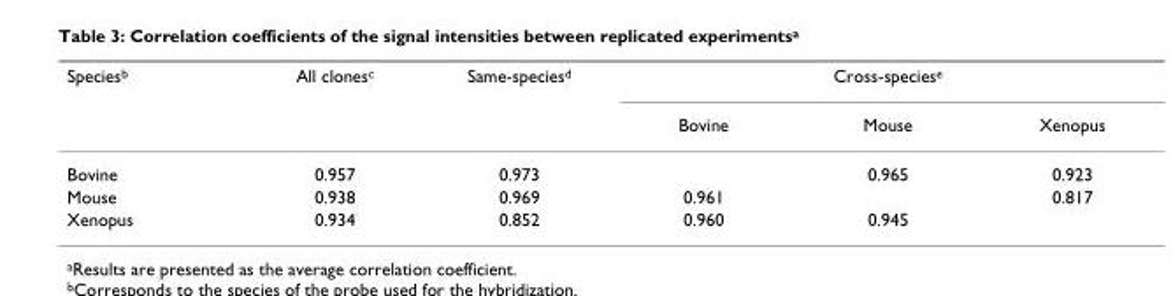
<table><thead><tr><td rowspan="2">Speciesb</td><td rowspan="2">All clonesc</td><td rowspan="2">Same-speciesd</td><td colspan="3">Cross-speciese</td></tr><tr><td>Bovine</td><td>Mouse</td><td>Xenopus</td></tr></thead><tbody><tr><td>Bovine</td><td>0.957</td><td>0.973</td><td></td><td>0.965</td><td>0.923</td></tr><tr><td>Mouse</td><td>0.938</td><td>0.969</td><td>0.961</td><td></td><td>0.817</td></tr><tr><td>Xenopus</td><td>0.934</td><td>0.852</td><td>0.960</td><td>0.945</td><td></td></tr></tbody></table>